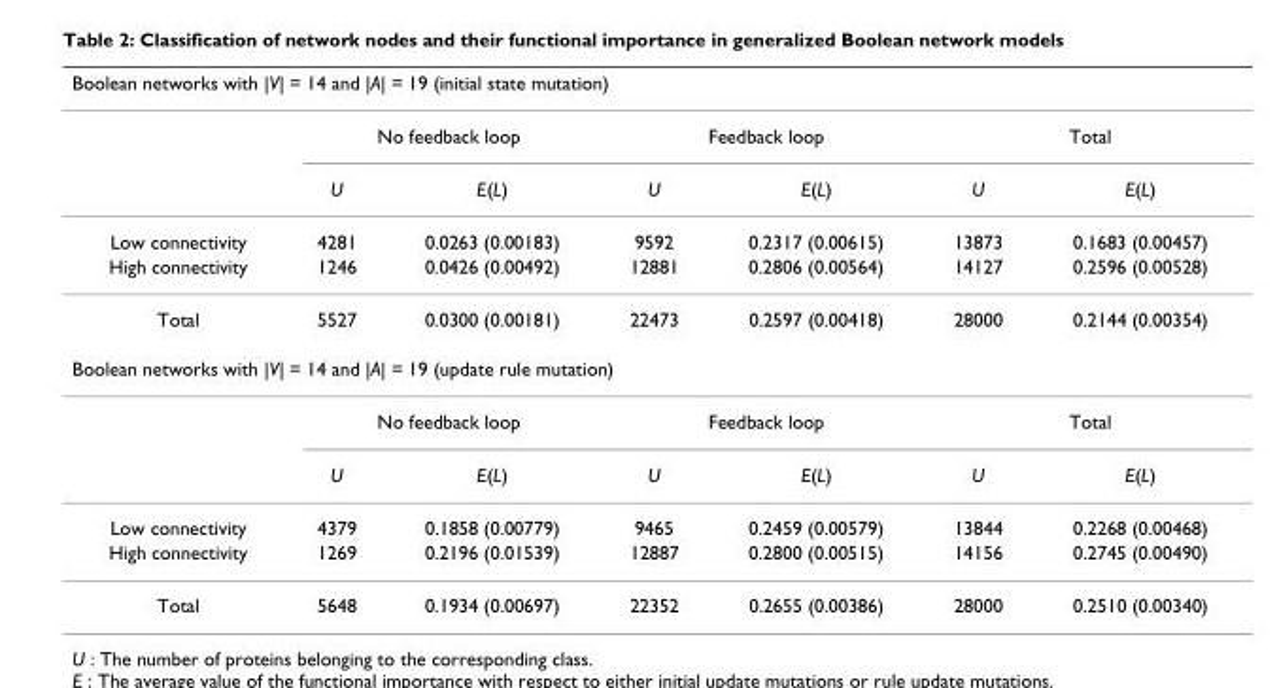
<table><thead><tr><td colspan="7">Boolean networks with |V| = 14 and |A| = 19 (initial state mutation)</td></tr><tr><td rowspan="2"></td><td colspan="2">No feedback loop</td><td colspan="2">Feedback loop</td><td colspan="2">Total</td></tr><tr><td>U</td><td>E(L)</td><td>U</td><td>E(L)</td><td>U</td><td>E(L)</td></tr></thead><tbody><tr><td>Low connectivity</td><td>4281</td><td>0.0263 (0.00183)</td><td>9592</td><td>0.2317 (0.00615)</td><td>13873</td><td>0.1683 (0.00457)</td></tr><tr><td>High connectivity</td><td>1246</td><td>0.0426 (0.00492)</td><td>12881</td><td>0.2806 (0.00564)</td><td>14127</td><td>0.2596 (0.00528)</td></tr><tr><td>Total</td><td>5527</td><td>0.0300 (0.00181)</td><td>22473</td><td>0.2597 (0.00418)</td><td>28000</td><td>0.2144 (0.00354)</td></tr><tr><td colspan="7">Boolean networks with |V| = 14 and |A| = 19 (update rule mutation)</td></tr><tr><td></td><td colspan="2">No feedback loop</td><td colspan="2">Feedback loop</td><td colspan="2">Total</td></tr><tr><td></td><td>U</td><td>E(L)</td><td>U</td><td>E(L)</td><td>U</td><td>E(L)</td></tr><tr><td>Low connectivity</td><td>4379</td><td>0.1858 (0.00779)</td><td>9465</td><td>0.2459 (0.00579)</td><td>13844</td><td>0.2268 (0.00468)</td></tr><tr><td>High connectivity</td><td>1269</td><td>0.2196 (0.01539)</td><td>12887</td><td>0.2800 (0.00515)</td><td>14156</td><td>0.2745 (0.00490)</td></tr><tr><td>Total</td><td>5648</td><td>0.1934 (0.00697)</td><td>22352</td><td>0.2655 (0.00386)</td><td>28000</td><td>0.2510 (0.00340)</td></tr></tbody></table>